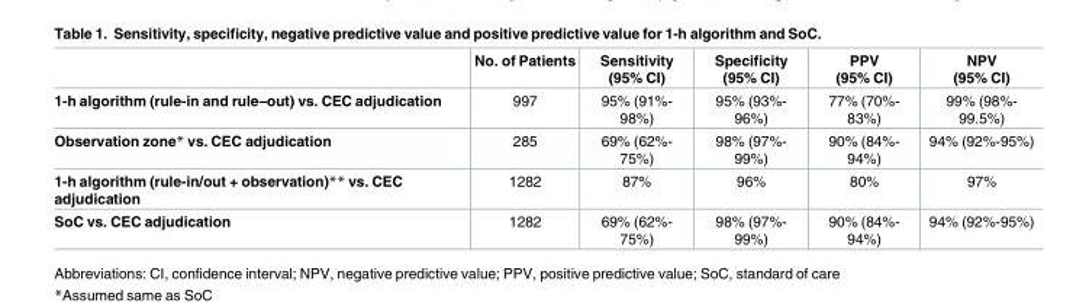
<table><thead><tr><td></td><td>No. of Patients</td><td>Sensitivity (95% CI)</td><td>Specificity (95% CI)</td><td>PPV (95% CI)</td><td>NPV (95% CI)</td></tr></thead><tbody><tr><td>1-h algorithm (rule-in and rule–out) vs. CEC adjudication</td><td>997</td><td>95% (91%- 98%)</td><td>95% (93%- 96%)</td><td>77% (70%- 83%)</td><td>99% (98%- 99.5%)</td></tr><tr><td>Observation zone* vs. CEC adjudication</td><td>285</td><td>69% (62%- 75%)</td><td>98% (97%- 99%)</td><td>90% (84%- 94%)</td><td>94% (92%-95%)</td></tr><tr><td>1-h algorithm (rule-in/out + observation)** vs. CEC adjudication</td><td>1282</td><td>87%</td><td>96%</td><td>80%</td><td>97%</td></tr><tr><td>SoC vs. CEC adjudication</td><td>1282</td><td>69% (62%- 75%)</td><td>98% (97%- 99%)</td><td>90% (84%- 94%)</td><td>94% (92%-95%)</td></tr></tbody></table>